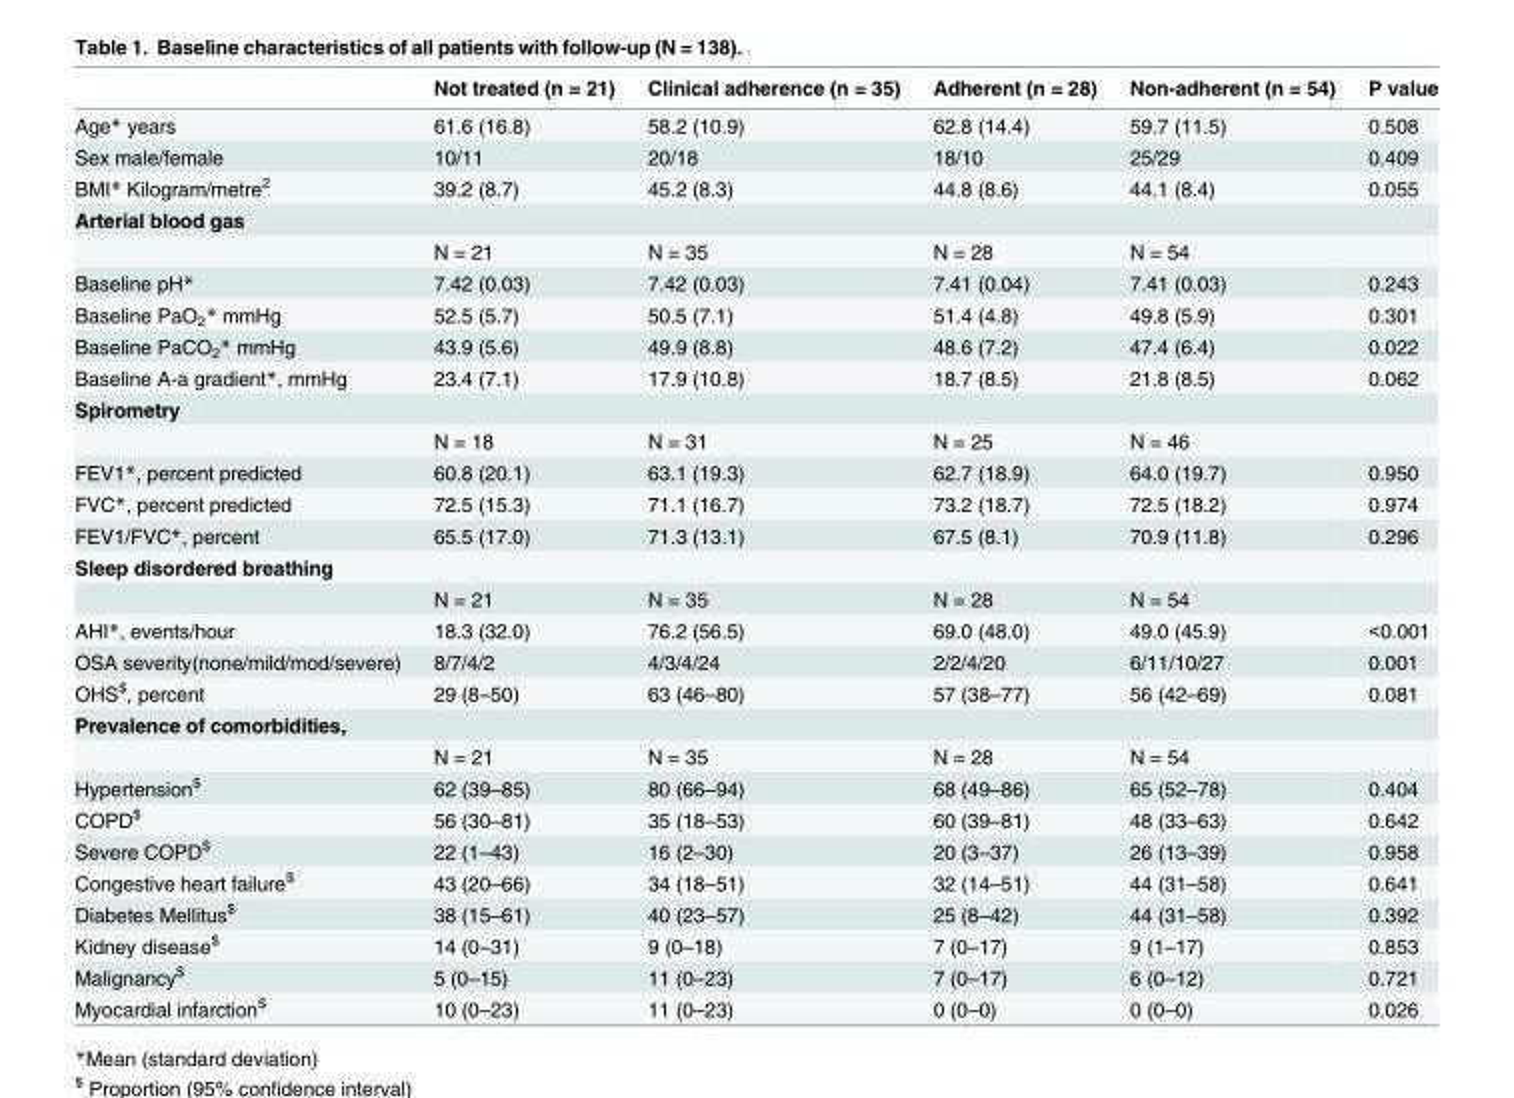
<table><thead><tr><td></td><td>Not treated (n = 21)</td><td>Clinical adherence (n = 35)</td><td>Adherent (n = 28)</td><td>Non-adherent (n = 54)</td><td>P value</td></tr></thead><tbody><tr><td>Age* years</td><td>61.6 (16.8)</td><td>58.2 (10.9)</td><td>62.8 (14.4)</td><td>59.7 (11.5)</td><td>0.508</td></tr><tr><td>Sex male/female</td><td>10/11</td><td>20/18</td><td>18/10</td><td>25/29</td><td>0.409</td></tr><tr><td>BMI* Kilogram/metre<sup>2</sup></td><td>39.2 (8.7)</td><td>45.2 (8.3)</td><td>44.8 (8.6)</td><td>44.1 (8.4)</td><td>0.055</td></tr><tr><td colspan="6">Arterial blood gas</td></tr><tr><td></td><td>N = 21</td><td>N = 35</td><td>N = 28</td><td>N = 54</td><td></td></tr><tr><td>Baseline pH*</td><td>7.42 (0.03)</td><td>7.42 (0.03)</td><td>7.41 (0.04)</td><td>7.41 (0.03)</td><td>0.243</td></tr><tr><td>Baseline PaO<sub>2</sub>* mmHg</td><td>52.5 (5.7)</td><td>50.5 (7.1)</td><td>51.4 (4.8)</td><td>49.8 (5.9)</td><td>0.301</td></tr><tr><td>Baseline PaCO<sub>2</sub>* mmHg</td><td>43.9 (5.6)</td><td>49.9 (8.8)</td><td>48.6 (7.2)</td><td>47.4 (6.4)</td><td>0.022</td></tr><tr><td>Baseline A-a gradient*, mmHg</td><td>23.4 (7.1)</td><td>17.9 (10.8)</td><td>18.7 (8.5)</td><td>21.8 (8.5)</td><td>0.062</td></tr><tr><td colspan="6">Spirometry</td></tr><tr><td></td><td>N = 18</td><td>N = 31</td><td>N = 25</td><td>N = 46</td><td></td></tr><tr><td>FEV1*, percent predicted</td><td>60.8 (20.1)</td><td>63.1 (19.3)</td><td>62.7 (18.9)</td><td>64.0 (19.7)</td><td>0.950</td></tr><tr><td>FVC*, percent predicted</td><td>72.5 (15.3)</td><td>71.1 (16.7)</td><td>73.2 (18.7)</td><td>72.5 (18.2)</td><td>0.974</td></tr><tr><td>FEV1/FVC*, percent</td><td>65.5 (17.0)</td><td>71.3 (13.1)</td><td>67.5 (8.1)</td><td>70.9 (11.8)</td><td>0.296</td></tr><tr><td colspan="6">Sleep disordered breathing</td></tr><tr><td></td><td>N = 21</td><td>N = 35</td><td>N = 28</td><td>N = 54</td><td></td></tr><tr><td>AHI*, events/hour</td><td>18.3 (32.0)</td><td>76.2 (56.5)</td><td>69.0 (48.0)</td><td>49.0 (45.9)</td><td>&lt;0.001</td></tr><tr><td>OSA severity(none/mild/mod/severe)</td><td>8/7/4/2</td><td>4/3/4/24</td><td>2/2/4/20</td><td>6/11/10/27</td><td>0.001</td></tr><tr><td>OHS<sup>$</sup>, percent</td><td>29 (8–50)</td><td>63 (46–80)</td><td>57 (38–77)</td><td>56 (42–69)</td><td>0.081</td></tr><tr><td colspan="6">Prevalence of comorbidities,</td></tr><tr><td></td><td>N = 21</td><td>N = 35</td><td>N = 28</td><td>N = 54</td><td></td></tr><tr><td>Hypertension<sup>$</sup></td><td>62 (39–85)</td><td>80 (66–94)</td><td>68 (49–86)</td><td>65 (52–78)</td><td>0.404</td></tr><tr><td>COPD<sup>$</sup></td><td>56 (30–81)</td><td>35 (18–53)</td><td>60 (39–81)</td><td>48 (33–63)</td><td>0.642</td></tr><tr><td>Severe COPD<sup>$</sup></td><td>22 (1–43)</td><td>16 (2–30)</td><td>20 (3–37)</td><td>26 (13–39)</td><td>0.958</td></tr><tr><td>Congestive heart failure<sup>$</sup></td><td>43 (20–66)</td><td>34 (18–51)</td><td>32 (14–51)</td><td>44 (31–58)</td><td>0.641</td></tr><tr><td>Diabetes Mellitus<sup>$</sup></td><td>38 (15–61)</td><td>40 (23–57)</td><td>25 (8–42)</td><td>44 (31–58)</td><td>0.392</td></tr><tr><td>Kidney disease<sup>$</sup></td><td>14 (0–31)</td><td>9 (0–18)</td><td>7 (0–17)</td><td>9 (1–17)</td><td>0.853</td></tr><tr><td>Malignancy<sup>$</sup></td><td>5 (0–15)</td><td>11 (0–23)</td><td>7 (0–17)</td><td>6 (0–12)</td><td>0.721</td></tr><tr><td>Myocardial infarction<sup>$</sup></td><td>10 (0–23)</td><td>11 (0–23)</td><td>0 (0–0)</td><td>0 (0–0)</td><td>0.026</td></tr></tbody></table>